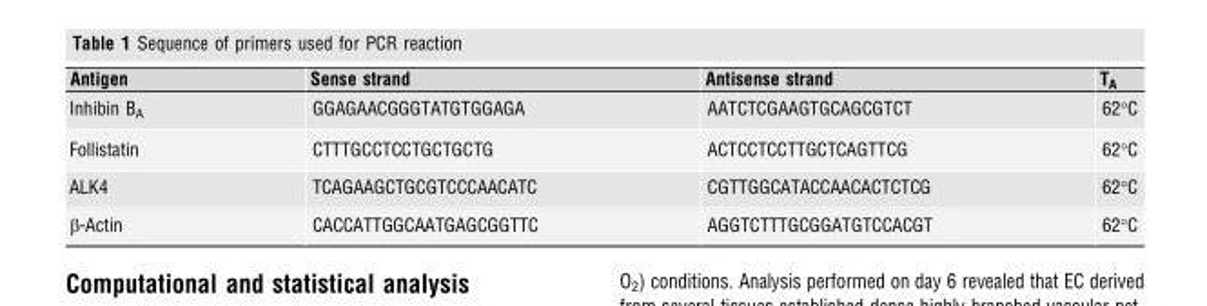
<table><thead><tr><td>Antigen</td><td>Sense strand</td><td>Antisense strand</td><td>T<sub>A</sub></td></tr></thead><tbody><tr><td>Inhibin B<sub>A</sub></td><td>GGAGAACGGGTATGTGGAGA</td><td>AATCTCGAAGTGCAGCGTCT</td><td>62°C</td></tr><tr><td>Follistatin</td><td>CTTTGCCTCCTGCTGCTG</td><td>ACTCCTCCTTGCTCAGTTCG</td><td>62°C</td></tr><tr><td>ALK4</td><td>TCAGAAGCTGCGTCCCAACATC</td><td>CGTTGGCATACCAACACTCTCG</td><td>62°C</td></tr><tr><td>β-Actin</td><td>CACCATTGGCAATGAGCGGTTC</td><td>AGGTCTTTGCGGATGTCCACGT</td><td>62°C</td></tr></tbody></table>